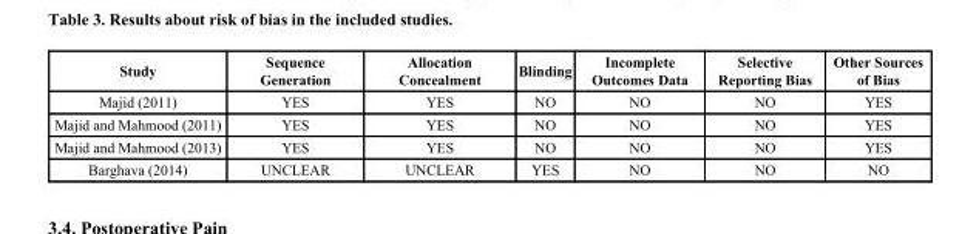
<table><thead><tr><td>Study</td><td>Sequence Generation</td><td>Allocation Concealment</td><td>Blinding</td><td>Incomplete Outcomes Data</td><td>Selective Reporting Bias</td><td>Other Sources of Bias</td></tr></thead><tbody><tr><td>Majid (2011)</td><td>YES</td><td>YES</td><td>NO</td><td>NO</td><td>NO</td><td>YES</td></tr><tr><td>Majid and Mahmood (2011)</td><td>YES</td><td>YES</td><td>NO</td><td>NO</td><td>NO</td><td>YES</td></tr><tr><td>Majid and Mahmood (2013)</td><td>YES</td><td>YES</td><td>NO</td><td>NO</td><td>NO</td><td>YES</td></tr><tr><td>Barghava (2014)</td><td>UNCLEAR</td><td>UNCLEAR</td><td>YES</td><td>NO</td><td>NO</td><td>NO</td></tr></tbody></table>